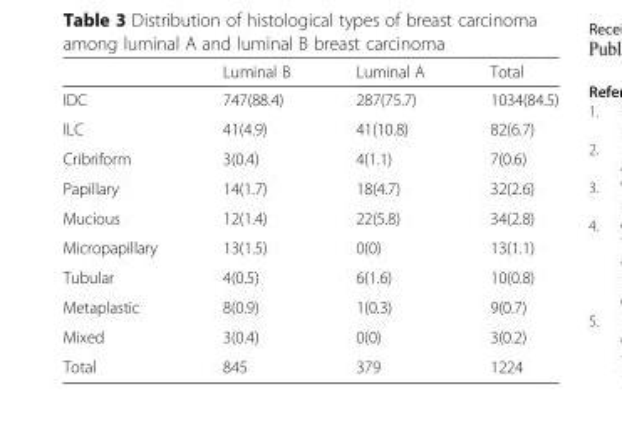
<table><thead><tr><td></td><td>Luminal B</td><td>Luminal A</td><td>Total</td></tr></thead><tbody><tr><td>IDC</td><td>747(88.4)</td><td>287(75.7)</td><td>1034(84.5)</td></tr><tr><td>ILC</td><td>41(4.9)</td><td>41(10.8)</td><td>82(6.7)</td></tr><tr><td>Cribriform</td><td>3(0.4)</td><td>4(1.1)</td><td>7(0.6)</td></tr><tr><td>Papillary</td><td>14(1.7)</td><td>18(4.7)</td><td>32(2.6)</td></tr><tr><td>Mucious</td><td>12(1.4)</td><td>22(5.8)</td><td>34(2.8)</td></tr><tr><td>Micropapillary</td><td>13(1.5)</td><td>0(0)</td><td>13(1.1)</td></tr><tr><td>Tubular</td><td>4(0.5)</td><td>6(1.6)</td><td>10(0.8)</td></tr><tr><td>Metaplastic</td><td>8(0.9)</td><td>1(0.3)</td><td>9(0.7)</td></tr><tr><td>Mixed</td><td>3(0.4)</td><td>0(0)</td><td>3(0.2)</td></tr><tr><td>Total</td><td>845</td><td>379</td><td>1224</td></tr></tbody></table>